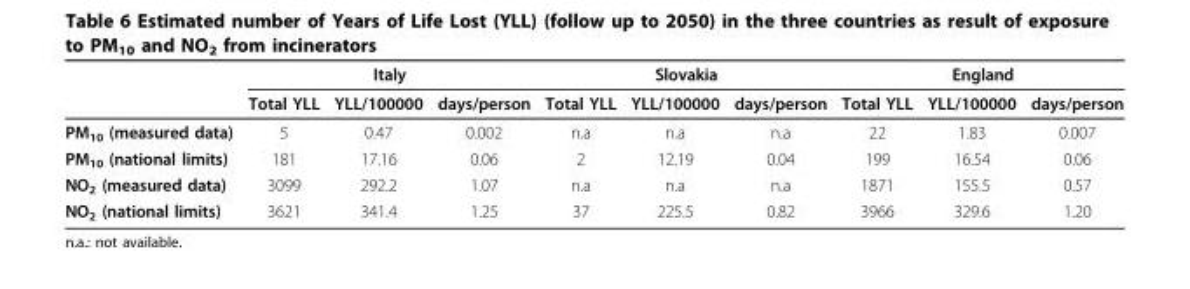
<table><thead><tr><td rowspan="2"></td><td colspan="3">Italy</td><td colspan="3">Slovakia</td><td colspan="3">England</td></tr><tr><td>Total YLL</td><td>YLL/100000</td><td>days/person</td><td>Total YLL</td><td>YLL/100000</td><td>days/person</td><td>Total YLL</td><td>YLL/100000</td><td>days/person</td></tr></thead><tbody><tr><td>PM<sub>10</sub> (measured data)</td><td>5</td><td>0.47</td><td>0.002</td><td>n.a</td><td>n.a</td><td>n.a</td><td>22</td><td>1.83</td><td>0.007</td></tr><tr><td>PM<sub>10</sub> (national limits)</td><td>181</td><td>17.16</td><td>0.06</td><td>2</td><td>12.19</td><td>0.04</td><td>199</td><td>16.54</td><td>0.06</td></tr><tr><td>NO<sub>2</sub> (measured data)</td><td>3099</td><td>292.2</td><td>1.07</td><td>n.a</td><td>n.a</td><td>n.a</td><td>1871</td><td>155.5</td><td>0.57</td></tr><tr><td>NO<sub>2</sub> (national limits)</td><td>3621</td><td>341.4</td><td>1.25</td><td>37</td><td>225.5</td><td>0.82</td><td>3966</td><td>329.6</td><td>1.20</td></tr></tbody></table>